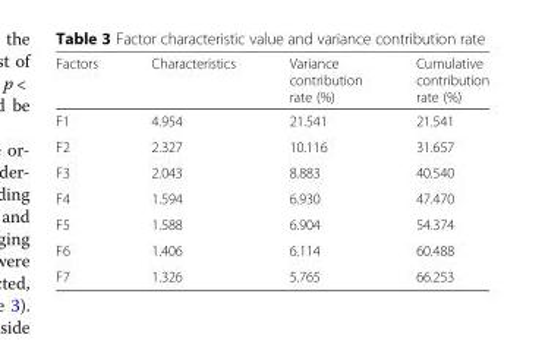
<table><thead><tr><td>Factors</td><td>Characteristics</td><td>Variance contribution rate (%)</td><td>Cumulative contribution rate (%)</td></tr></thead><tbody><tr><td>F1</td><td>4.954</td><td>21.541</td><td>21.541</td></tr><tr><td>F2</td><td>2.327</td><td>10.116</td><td>31.657</td></tr><tr><td>F3</td><td>2.043</td><td>8.883</td><td>40.540</td></tr><tr><td>F4</td><td>1.594</td><td>6.930</td><td>47.470</td></tr><tr><td>F5</td><td>1.588</td><td>6.904</td><td>54.374</td></tr><tr><td>F6</td><td>1.406</td><td>6.114</td><td>60.488</td></tr><tr><td>F7</td><td>1.326</td><td>5.765</td><td>66.253</td></tr></tbody></table>